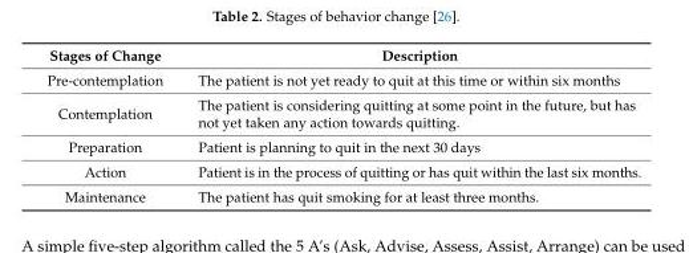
<table><thead><tr><td>Stages of Change</td><td>Description</td></tr></thead><tbody><tr><td>Pre-contemplation</td><td>The patient is not yet ready to quit at this time or within six months</td></tr><tr><td>Contemplation</td><td>The patient is considering quitting at some point in the future, but has not yet taken any action towards quitting.</td></tr><tr><td>Preparation</td><td>Patient is planning to quit in the next 30 days</td></tr><tr><td>Action</td><td>Patient is in the process of quitting or has quit within the last six months.</td></tr><tr><td>Maintenance</td><td>The patient has quit smoking for at least three months.</td></tr></tbody></table>